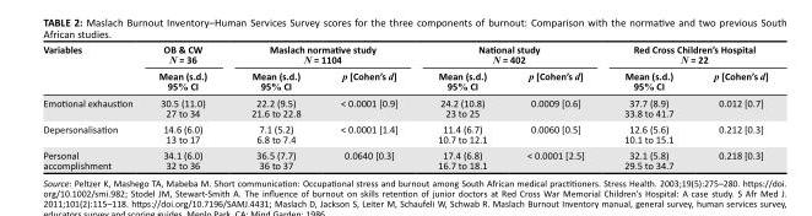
<table><thead><tr><td rowspan="2">Variables</td><td rowspan="2">OB &amp; CW N = 36 Mean (s.d.) 95% CI</td><td colspan="2">Maslach normative study N = 1104</td><td colspan="2">National study N = 402</td><td colspan="2">Red Cross Children’s Hospital N = 22</td></tr><tr><td>Mean (s.d.) 95% CI</td><td>p [Cohen’s d]</td><td>Mean (s.d.) 95% CI</td><td>p [Cohen’s d]</td><td>Mean (s.d.) 95% CI</td><td>p [Cohen’s d]</td></tr></thead><tbody><tr><td>Emotional exhaustion</td><td>30.5 (11.0) 27 to 34</td><td>22.2 (9.5) 21.6 to 22.8</td><td>&lt; 0.0001 [0.9]</td><td>24.2 (10.8) 23 to 25</td><td>0.0009 [0.6]</td><td>37.7 (8.9) 33.8 to 41.7</td><td>0.012 [0.7]</td></tr><tr><td>Depersonalisation</td><td>14.6 (6.0) 13 to 17</td><td>7.1 (5.2) 6.8 to 7.4</td><td>&lt; 0.0001 [1.4]</td><td>11.4 (6.7) 10.7 to 12.1</td><td>0.0060 [0.5]</td><td>12.6 (5.6) 10.1 to 15.1</td><td>0.212 [0.3]</td></tr><tr><td>Personal accomplishment</td><td>34.1 (6.0) 32 to 36</td><td>36.5 (7.7) 36 to 37</td><td>0.0640 [0.3]</td><td>17.4 (6.8) 16.7 to 18.1</td><td>&lt; 0.0001 [2.5]</td><td>32.1 (5.8) 29.5 to 34.7</td><td>0.218 [0.3]</td></tr></tbody></table>